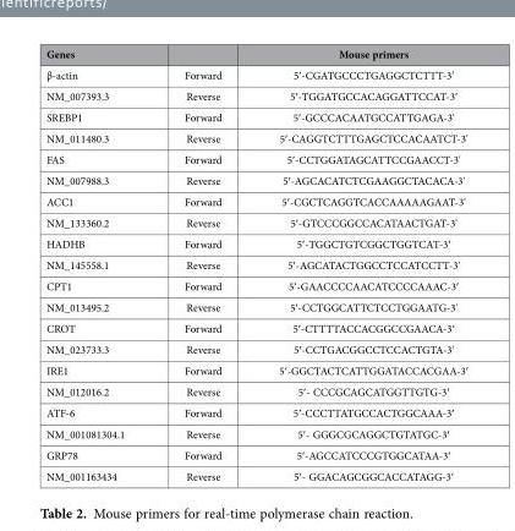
<table><thead><tr><td>Genes</td><td></td><td>Mouse primers</td></tr></thead><tbody><tr><td>β-actin</td><td>Forward</td><td>5′-CGATGCCCTGAGGCTCTTT-3’</td></tr><tr><td>NM_007393.3</td><td>Reverse</td><td>5′-TGGATGCCACAGGATTCCAT-3′</td></tr><tr><td>SREBP1</td><td>Forward</td><td>5′-GCCCACAATGCCATTGAGA-3&#x27;</td></tr><tr><td>NM_011480.3</td><td>Reverse</td><td>5′-CAGGTCTTTGAGCTCCACAATCT-3&#x27;</td></tr><tr><td>FAS</td><td>Forward</td><td>5′-CCTGGATAGCATTCCGAACCT-3&#x27;</td></tr><tr><td>NM_007988.3</td><td>Reverse</td><td>5′-AGCACATCTCGAAGGCTACACA-3&#x27;</td></tr><tr><td>ACC1</td><td>Forward</td><td>5′-CGCTCAGGTCACCAAAAAGAAT-3&#x27;</td></tr><tr><td>NM_133360.2</td><td>Reverse</td><td>5′-GTCCCGGCCACATAACTGAT-3&#x27;</td></tr><tr><td>HADHB</td><td>Forward</td><td>5′-TGGCTGTCGGCTGGTCAT-3′</td></tr><tr><td>NM_145558.1</td><td>Reverse</td><td>5′-AGCATACTGGCCTCCATCCTT-3&#x27;</td></tr><tr><td>CPT1</td><td>Forward</td><td>5′-GAACCCCAACATCCCCAAAC-3′</td></tr><tr><td>NM_013495.2</td><td>Reverse</td><td>5′-CCTGGCATTCTCCTGGAATG-3&#x27;</td></tr><tr><td>CROT</td><td>Forward</td><td>5′-CTTTTACCACGGCCGAACA-3′</td></tr><tr><td>NM_023733.3</td><td>Reverse</td><td>5′-CCTGACGGCCTCCACTGTA-3&#x27;</td></tr><tr><td>IRE1</td><td>Forward</td><td>5′-GGCTACTCATTGGATACCACGAA-3′</td></tr><tr><td>NM_012016.2</td><td>Reverse</td><td>5′- CCCGCAGCATGGTTGTG-3′</td></tr><tr><td>ATF-6</td><td>Forward</td><td>5′-CCCTTATGCCACTGGCAAA-3′</td></tr><tr><td>NM_001081304.1</td><td>Reverse</td><td>5′- GGGCGCAGGCTGTATGC-3′</td></tr><tr><td>GRP78</td><td>Forward</td><td>5′-AGCCATCCCGTGGCATAA-3′</td></tr><tr><td>NM_001163434</td><td>Reverse</td><td>5′- GGACAGCGGCACCATAGG-3′</td></tr></tbody></table>